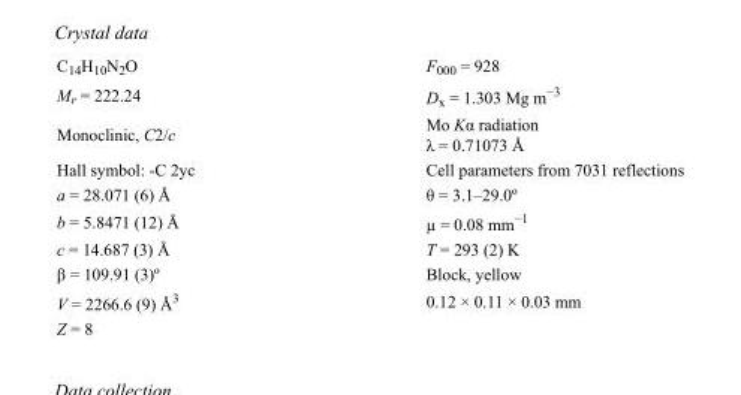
<table><tbody><tr><td>C<sub>14</sub>H<sub>10</sub>N<sub>2</sub>O</td><td>F<sub>000</sub> = 928</td></tr><tr><td>M<sub>r</sub> = 222.24</td><td>D<sub>x</sub> = 1.303 Mg m<sup>−3</sup></td></tr><tr><td>Monoclinic, C2/c</td><td>Mo Kα radiation λ = 0.71073 Å</td></tr><tr><td>Hall symbol: -C 2yc</td><td>Cell parameters from 7031 reflections</td></tr><tr><td>a = 28.071 (6) Å</td><td>θ = 3.1–29.0º</td></tr><tr><td>b = 5.8471 (12) Å</td><td>µ = 0.08 mm<sup>−1</sup></td></tr><tr><td>c = 14.687 (3) Å</td><td>T = 293 (2) K</td></tr><tr><td>β = 109.91 (3)º</td><td>Block, yellow</td></tr><tr><td>V = 2266.6 (9) Å<sup>3</sup></td><td>0.12 × 0.11 × 0.03 mm</td></tr><tr><td>Z = 8</td><td></td></tr></tbody></table>